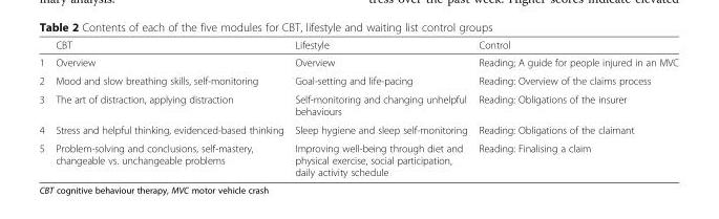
<table><thead><tr><td></td><td>CBT</td><td>Lifestyle</td><td>Control</td></tr></thead><tbody><tr><td>1</td><td>Overview</td><td>Overview</td><td>Reading; A guide for people injured in an MVC</td></tr><tr><td>2</td><td>Mood and slow breathing skills, self-monitoring</td><td>Goal-setting and life-pacing</td><td>Reading: Overview of the claims process</td></tr><tr><td>3</td><td>The art of distraction, applying distraction</td><td>Self-monitoring and changing unhelpful behaviours</td><td>Reading: Obligations of the insurer</td></tr><tr><td>4</td><td>Stress and helpful thinking, evidenced-based thinking</td><td>Sleep hygiene and sleep self-monitoring</td><td>Reading: Obligations of the claimant</td></tr><tr><td>5</td><td>Problem-solving and conclusions, self-mastery, changeable vs. unchangeable problems</td><td>Improving well-being through diet and physical exercise, social participation, daily activity schedule</td><td>Reading: Finalising a claim</td></tr></tbody></table>